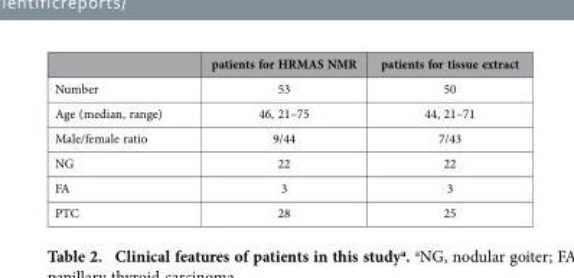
<table><thead><tr><td></td><td>patients for HRMAS NMR</td><td>patients for tissue extract</td></tr></thead><tbody><tr><td>Number</td><td>53</td><td>50</td></tr><tr><td>Age (median, range)</td><td>46, 21–75</td><td>44, 21–71</td></tr><tr><td>Male/female ratio</td><td>9/44</td><td>7/43</td></tr><tr><td>NG</td><td>22</td><td>22</td></tr><tr><td>FA</td><td>3</td><td>3</td></tr><tr><td>PTC</td><td>28</td><td>25</td></tr></tbody></table>